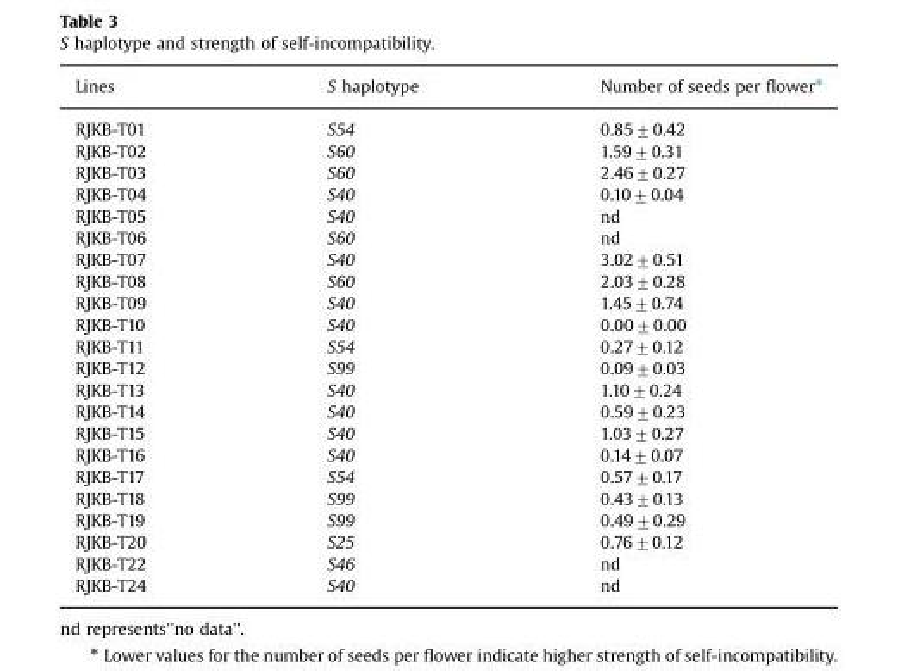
<table><thead><tr><td>Lines</td><td>S haplotype</td><td>Number of seeds per flower⁎</td></tr></thead><tbody><tr><td>RJKB-T01</td><td>S54</td><td>0.85±0.42</td></tr><tr><td>RJKB-T02</td><td>S60</td><td>1.59±0.31</td></tr><tr><td>RJKB-T03</td><td>S60</td><td>2.46±0.27</td></tr><tr><td>RJKB-T04</td><td>S40</td><td>0.10±0.04</td></tr><tr><td>RJKB-T05</td><td>S40</td><td>nd</td></tr><tr><td>RJKB-T06</td><td>S60</td><td>nd</td></tr><tr><td>RJKB-T07</td><td>S40</td><td>3.02±0.51</td></tr><tr><td>RJKB-T08</td><td>S60</td><td>2.03±0.28</td></tr><tr><td>RJKB-T09</td><td>S40</td><td>1.45±0.74</td></tr><tr><td>RJKB-T10</td><td>S40</td><td>0.00±0.00</td></tr><tr><td>RJKB-T11</td><td>S54</td><td>0.27±0.12</td></tr><tr><td>RJKB-T12</td><td>S99</td><td>0.09±0.03</td></tr><tr><td>RJKB-T13</td><td>S40</td><td>1.10±0.24</td></tr><tr><td>RJKB-T14</td><td>S40</td><td>0.59±0.23</td></tr><tr><td>RJKB-T15</td><td>S40</td><td>1.03±0.27</td></tr><tr><td>RJKB-T16</td><td>S40</td><td>0.14±0.07</td></tr><tr><td>RJKB-T17</td><td>S54</td><td>0.57±0.17</td></tr><tr><td>RJKB-T18</td><td>S99</td><td>0.43±0.13</td></tr><tr><td>RJKB-T19</td><td>S99</td><td>0.49±0.29</td></tr><tr><td>RJKB-T20</td><td>S25</td><td>0.76±0.12</td></tr><tr><td>RJKB-T22</td><td>S46</td><td>nd</td></tr><tr><td>RJKB-T24</td><td>S40</td><td>nd</td></tr></tbody></table>